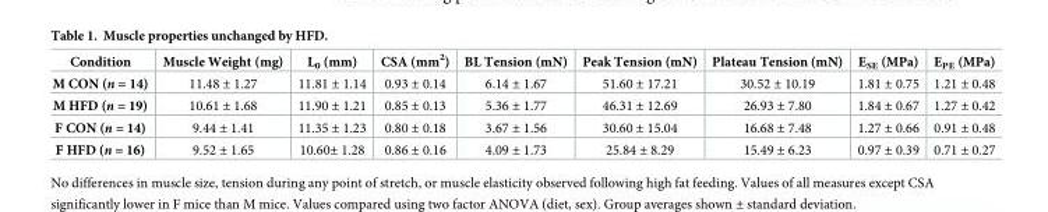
<table><thead><tr><td>Condition</td><td>Muscle Weight (mg)</td><td>L<sub>0</sub> (mm)</td><td>CSA (mm<sup>2</sup>)</td><td>BL Tension (mN)</td><td>Peak Tension (mN)</td><td>Plateau Tension (mN)</td><td>E<sub>SE</sub> (MPa)</td><td>E<sub>PE</sub> (MPa)</td></tr></thead><tbody><tr><td>M CON (n = 14)</td><td>11.48 ± 1.27</td><td>11.81 ± 1.14</td><td>0.93 ± 0.14</td><td>6.14 ± 1.67</td><td>51.60 ± 17.21</td><td>30.52 ± 10.19</td><td>1.81 ± 0.75</td><td>1.21 ± 0.48</td></tr><tr><td>M HFD (n = 19)</td><td>10.61 ± 1.68</td><td>11.90 ± 1.21</td><td>0.85 ± 0.13</td><td>5.36 ± 1.77</td><td>46.31 ± 12.69</td><td>26.93 ± 7.80</td><td>1.84 ± 0.67</td><td>1.27 ± 0.42</td></tr><tr><td>F CON (n = 14)</td><td>9.44 ± 1.41</td><td>11.35 ± 1.23</td><td>0.80 ± 0.18</td><td>3.67 ± 1.56</td><td>30.60 ± 15.04</td><td>16.68 ± 7.48</td><td>1.27 ± 0.66</td><td>0.91 ± 0.48</td></tr><tr><td>F HFD (n = 16)</td><td>9.52 ± 1.65</td><td>10.60± 1.28</td><td>0.86 ± 0.16</td><td>4.09 ± 1.73</td><td>25.84 ± 8.29</td><td>15.49 ± 6.23</td><td>0.97 ± 0.39</td><td>0.71 ± 0.27</td></tr></tbody></table>